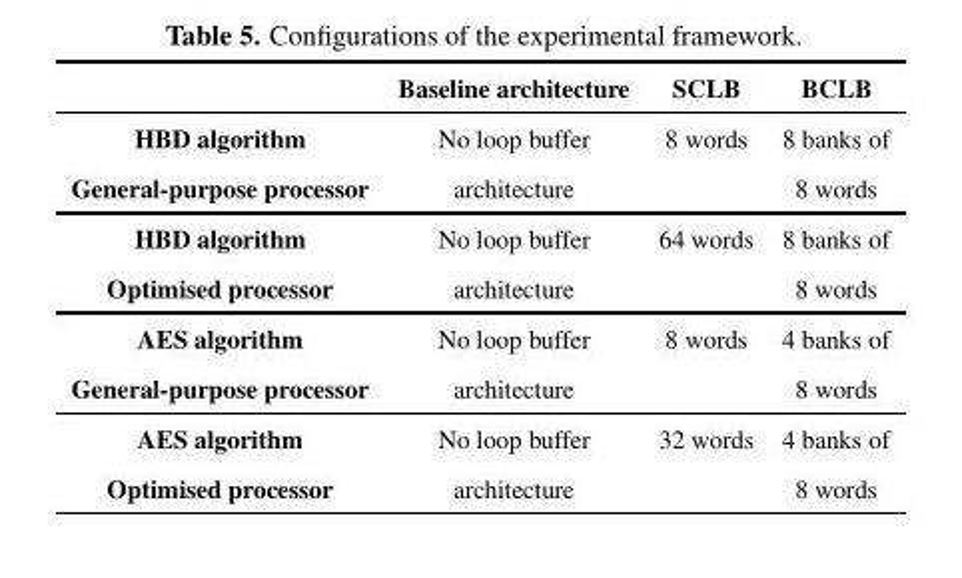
<table><thead><tr><td></td><td>Baseline architecture</td><td>SCLB</td><td>BCLB</td></tr></thead><tbody><tr><td>HBD algorithm</td><td>No loop buffer</td><td>8 words</td><td>8 banks of</td></tr><tr><td>General-purpose processor</td><td>architecture</td><td></td><td>8 words</td></tr><tr><td>HBD algorithm</td><td>No loop buffer</td><td>64 words</td><td>8 banks of</td></tr><tr><td>Optimised processor</td><td>architecture</td><td></td><td>8 words</td></tr><tr><td>AES algorithm</td><td>No loop buffer</td><td>8 words</td><td>4 banks of</td></tr><tr><td>General-purpose processor</td><td>architecture</td><td></td><td>8 words</td></tr><tr><td>AES algorithm</td><td>No loop buffer</td><td>32 words</td><td>4 banks of</td></tr><tr><td>Optimised processor</td><td>architecture</td><td></td><td>8 words</td></tr></tbody></table>